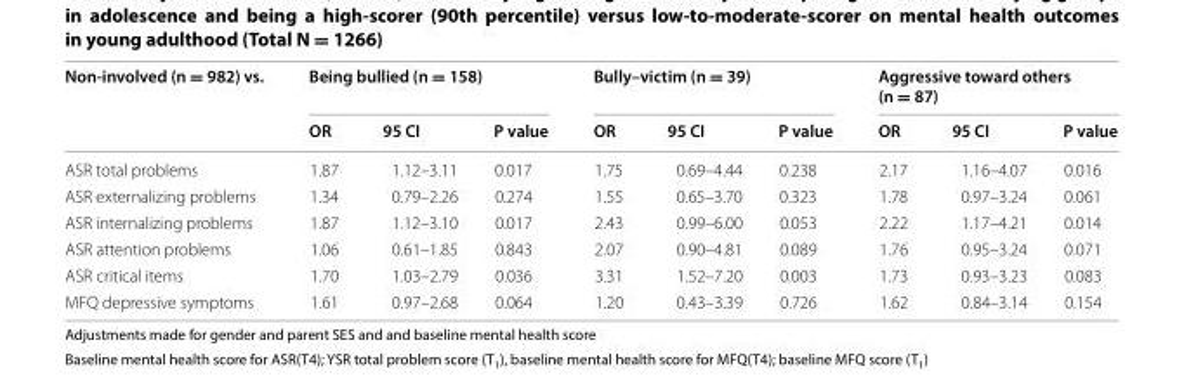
<table><thead><tr><td rowspan="2">Non-involved (n = 982) vs.</td><td colspan="3">Being bullied (n = 158)</td><td colspan="3">Bully–victim (n = 39)</td><td colspan="3">Aggressive toward others (n = 87)</td></tr><tr><td>OR</td><td>95 CI</td><td>P value</td><td>OR</td><td>95 CI</td><td>P value</td><td>OR</td><td>95 CI</td><td>P value</td></tr></thead><tbody><tr><td>ASR total problems</td><td>1.87</td><td>1.12–3.11</td><td>0.017</td><td>1.75</td><td>0.69–4.44</td><td>0.238</td><td>2.17</td><td>1.16–4.07</td><td>0.016</td></tr><tr><td>ASR externalizing problems</td><td>1.34</td><td>0.79–2.26</td><td>0.274</td><td>1.55</td><td>0.65–3.70</td><td>0.323</td><td>1.78</td><td>0.97–3.24</td><td>0.061</td></tr><tr><td>ASR internalizing problems</td><td>1.87</td><td>1.12–3.10</td><td>0.017</td><td>2.43</td><td>0.99–6.00</td><td>0.053</td><td>2.22</td><td>1.17–4.21</td><td>0.014</td></tr><tr><td>ASR attention problems</td><td>1.06</td><td>0.61–1.85</td><td>0.843</td><td>2.07</td><td>0.90–4.81</td><td>0.089</td><td>1.76</td><td>0.95–3.24</td><td>0.071</td></tr><tr><td>ASR critical items</td><td>1.70</td><td>1.03–2.79</td><td>0.036</td><td>3.31</td><td>1.52–7.20</td><td>0.003</td><td>1.73</td><td>0.93–3.23</td><td>0.083</td></tr><tr><td>MFQ depressive symptoms</td><td>1.61</td><td>0.97–2.68</td><td>0.064</td><td>1.20</td><td>0.43–3.39</td><td>0.726</td><td>1.62</td><td>0.84–3.14</td><td>0.154</td></tr></tbody></table>